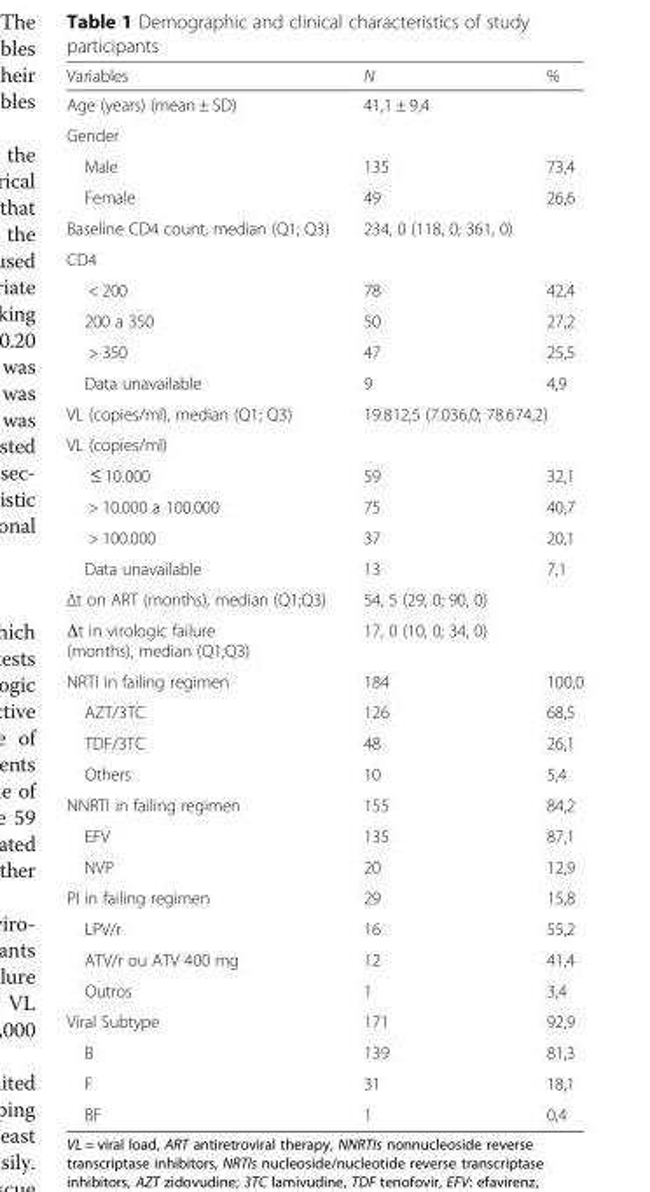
<table><thead><tr><td>Variables</td><td>N</td><td>%</td></tr></thead><tbody><tr><td>Age (years) (mean ± SD)</td><td>41,1 ± 9,4</td><td></td></tr><tr><td colspan="3">Gender</td></tr><tr><td>Male</td><td>135</td><td>73,4</td></tr><tr><td>Female</td><td>49</td><td>26,6</td></tr><tr><td>Baseline CD4 count, median (Q1; Q3)</td><td>234, 0 (118, 0; 361, 0)</td><td></td></tr><tr><td colspan="3">CD4</td></tr><tr><td>&lt; 200</td><td>78</td><td>42,4</td></tr><tr><td>200 a 350</td><td>50</td><td>27,2</td></tr><tr><td>&gt; 350</td><td>47</td><td>25,5</td></tr><tr><td>Data unavailable</td><td>9</td><td>4,9</td></tr><tr><td>VL (copies/ml), median (Q1; Q3)</td><td colspan="2">19.812,5 (7.036,0; 78.674,2)</td></tr><tr><td colspan="3">VL (copies/ml)</td></tr><tr><td>≤ 10.000</td><td>59</td><td>32,1</td></tr><tr><td>&gt; 10.000 a 100.000</td><td>75</td><td>40,7</td></tr><tr><td>&gt; 100.000</td><td>37</td><td>20,1</td></tr><tr><td>Data unavailable</td><td>13</td><td>7,1</td></tr><tr><td>Δt on ART (months), median (Q1;Q3)</td><td>54, 5 (29, 0; 90, 0)</td><td></td></tr><tr><td>Δt in virologic failure (months), median (Q1;Q3)</td><td>17, 0 (10, 0; 34, 0)</td><td></td></tr><tr><td>NRTI in failing regimen</td><td>184</td><td>100,0</td></tr><tr><td>AZT/3TC</td><td>126</td><td>68,5</td></tr><tr><td>TDF/3TC</td><td>48</td><td>26,1</td></tr><tr><td>Others</td><td>10</td><td>5,4</td></tr><tr><td>NNRTI in failing regimen</td><td>155</td><td>84,2</td></tr><tr><td>EFV</td><td>135</td><td>87,1</td></tr><tr><td>NVP</td><td>20</td><td>12,9</td></tr><tr><td>PI in failing regimen</td><td>29</td><td>15,8</td></tr><tr><td>LPV/r</td><td>16</td><td>55,2</td></tr><tr><td>ATV/r ou ATV 400 mg</td><td>12</td><td>41,4</td></tr><tr><td>Outros</td><td>1</td><td>3,4</td></tr><tr><td>Viral Subtype</td><td>171</td><td>92,9</td></tr><tr><td>B</td><td>139</td><td>81,3</td></tr><tr><td>F</td><td>31</td><td>18,1</td></tr><tr><td>BF</td><td>1</td><td>0,4</td></tr></tbody></table>